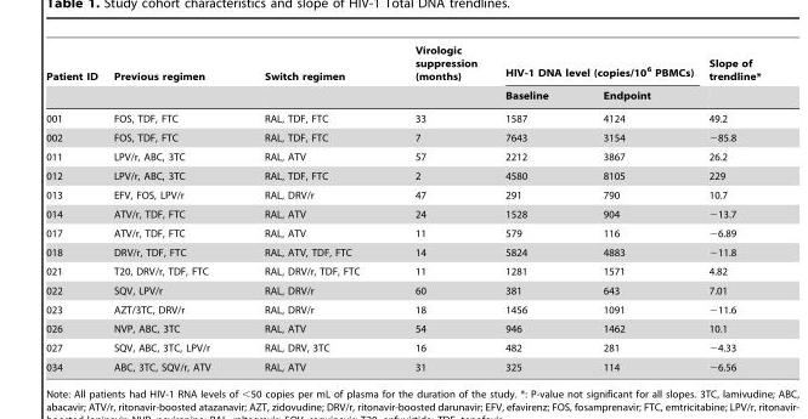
<table><thead><tr><td rowspan="2">Patient ID</td><td rowspan="2">Previous regimen</td><td rowspan="2">Switch regimen</td><td rowspan="2">Virologic suppression (months)</td><td colspan="2">HIV-1 DNA level (copies/10<sup>6</sup> PBMCs)</td><td rowspan="2">Slope of trendline*</td></tr><tr><td>Baseline</td><td>Endpoint</td></tr></thead><tbody><tr><td>001</td><td>FOS, TDF, FTC</td><td>RAL, TDF, FTC</td><td>33</td><td>1587</td><td>4124</td><td>49.2</td></tr><tr><td>002</td><td>FOS, TDF, FTC</td><td>RAL, TDF, FTC</td><td>7</td><td>7643</td><td>3154</td><td>−85.8</td></tr><tr><td>011</td><td>LPV/r, ABC, 3TC</td><td>RAL, ATV</td><td>57</td><td>2212</td><td>3867</td><td>26.2</td></tr><tr><td>012</td><td>LPV/r, ABC, 3TC</td><td>RAL, TDF, FTC</td><td>2</td><td>4580</td><td>8105</td><td>229</td></tr><tr><td>013</td><td>EFV, FOS, LPV/r</td><td>RAL, DRV/r</td><td>47</td><td>291</td><td>790</td><td>10.7</td></tr><tr><td>014</td><td>ATV/r, TDF, FTC</td><td>RAL, ATV</td><td>24</td><td>1528</td><td>904</td><td>−13.7</td></tr><tr><td>017</td><td>ATV/r, TDF, FTC</td><td>RAL, ATV</td><td>11</td><td>579</td><td>116</td><td>−6.89</td></tr><tr><td>018</td><td>DRV/r, TDF, FTC</td><td>RAL, ATV, TDF, FTC</td><td>14</td><td>5824</td><td>4883</td><td>−11.8</td></tr><tr><td>021</td><td>T20, DRV/r, TDF, FTC</td><td>RAL, DRV/r, TDF, FTC</td><td>11</td><td>1281</td><td>1571</td><td>4.82</td></tr><tr><td>022</td><td>SQV, LPV/r</td><td>RAL, DRV/r</td><td>60</td><td>381</td><td>643</td><td>7.01</td></tr><tr><td>023</td><td>AZT/3TC, DRV/r</td><td>RAL, DRV/r</td><td>18</td><td>1456</td><td>1091</td><td>−11.6</td></tr><tr><td>026</td><td>NVP, ABC, 3TC</td><td>RAL, ATV</td><td>54</td><td>946</td><td>1462</td><td>10.1</td></tr><tr><td>027</td><td>SQV, ABC, 3TC, LPV/r</td><td>RAL, DRV, 3TC</td><td>16</td><td>482</td><td>281</td><td>−4.33</td></tr><tr><td>034</td><td>ABC, 3TC, SQV/r, ATV</td><td>RAL, ATV</td><td>31</td><td>325</td><td>114</td><td>−6.56</td></tr></tbody></table>